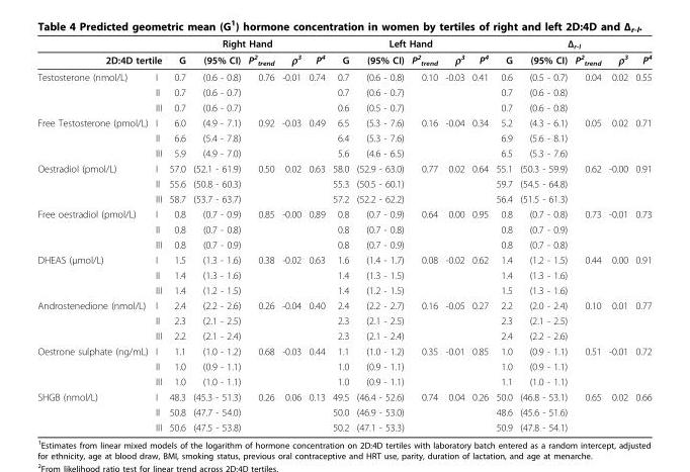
<table><thead><tr><td></td><td></td><td colspan="5">Right Hand</td><td colspan="5">Left Hand</td><td colspan="5">Δ<sub>r-l</sub></td></tr><tr><td colspan="2">2D:4D tertile</td><td>G</td><td>(95% CI)</td><td>P<sup>2</sup> <sub>trend</sub></td><td>ρ<sup>3</sup></td><td>P<sup>4</sup></td><td>G</td><td>(95% CI)</td><td>P<sup>2</sup> <sub>trend</sub></td><td>ρ<sup>3</sup></td><td>P<sup>4</sup></td><td>G</td><td>(95% CI)</td><td>P<sup>2</sup> <sub>trend</sub></td><td>ρ<sup>3</sup></td><td>P<sup>4</sup></td></tr></thead><tbody><tr><td rowspan="3">Testosterone (nmol/L)</td><td>I</td><td>0.7</td><td>(0.6 - 0.8)</td><td>0.76</td><td>-0.01</td><td>0.74</td><td>0.7</td><td>(0.6 - 0.8)</td><td>0.10</td><td>-0.03</td><td>0.41</td><td>0.6</td><td>(0.5 - 0.7)</td><td>0.04</td><td>0.02</td><td>0.55</td></tr><tr><td>II</td><td>0.7</td><td>(0.6 - 0.7)</td><td></td><td></td><td></td><td>0.7</td><td>(0.6 - 0.7)</td><td></td><td></td><td></td><td>0.7</td><td>(0.6 - 0.8)</td><td></td><td></td><td></td></tr><tr><td>III</td><td>0.7</td><td>(0.6 - 0.7)</td><td></td><td></td><td></td><td>0.6</td><td>(0.5 - 0.7)</td><td></td><td></td><td></td><td>0.7</td><td>(0.6 - 0.8)</td><td></td><td></td><td></td></tr><tr><td rowspan="3">Free Testosterone (pmol/L)</td><td>I</td><td>6.0</td><td>(4.9 - 7.1)</td><td>0.92</td><td>-0.03</td><td>0.49</td><td>6.5</td><td>(5.3 - 7.6)</td><td>0.16</td><td>-0.04</td><td>0.34</td><td>5.2</td><td>(4.3 - 6.1)</td><td>0.05</td><td>0.02</td><td>0.71</td></tr><tr><td>II</td><td>6.6</td><td>(5.4 - 7.8)</td><td></td><td></td><td></td><td>6.4</td><td>(5.3 - 7.6)</td><td></td><td></td><td></td><td>6.9</td><td>(5.6 - 8.1)</td><td></td><td></td><td></td></tr><tr><td>III</td><td>5.9</td><td>(4.9 - 7.0)</td><td></td><td></td><td></td><td>5.6</td><td>(4.6 - 6.5)</td><td></td><td></td><td></td><td>6.5</td><td>(5.3 - 7.6)</td><td></td><td></td><td></td></tr><tr><td rowspan="3">Oestradiol (pmol/L)</td><td>I</td><td>57.0</td><td>(52.1 - 61.9)</td><td>0.50</td><td>0.02</td><td>0.63</td><td>58.0</td><td>(52.9 - 63.0)</td><td>0.77</td><td>0.02</td><td>0.64</td><td>55.1</td><td>(50.3 - 59.9)</td><td>0.62</td><td>-0.00</td><td>0.91</td></tr><tr><td>II</td><td>55.6</td><td>(50.8 - 60.3)</td><td></td><td></td><td></td><td>55.3</td><td>(50.5 - 60.1)</td><td></td><td></td><td></td><td>59.7</td><td>(54.5 - 64.8)</td><td></td><td></td><td></td></tr><tr><td>III</td><td>58.7</td><td>(53.7 - 63.7)</td><td></td><td></td><td></td><td>57.2</td><td>(52.2 - 62.2)</td><td></td><td></td><td></td><td>56.4</td><td>(51.5 - 61.3)</td><td></td><td></td><td></td></tr><tr><td rowspan="3">Free oestradiol (pmol/L)</td><td>I</td><td>0.8</td><td>(0.7 - 0.9)</td><td>0.85</td><td>-0.00</td><td>0.89</td><td>0.8</td><td>(0.7 - 0.9)</td><td>0.64</td><td>0.00</td><td>0.95</td><td>0.8</td><td>(0.7 - 0.8)</td><td>0.73</td><td>-0.01</td><td>0.73</td></tr><tr><td>II</td><td>0.8</td><td>(0.7 - 0.8)</td><td></td><td></td><td></td><td>0.8</td><td>(0.7 - 0.8)</td><td></td><td></td><td></td><td>0.8</td><td>(0.7 - 0.9)</td><td></td><td></td><td></td></tr><tr><td>III</td><td>0.8</td><td>(0.7 - 0.9)</td><td></td><td></td><td></td><td>0.8</td><td>(0.7 - 0.9)</td><td></td><td></td><td></td><td>0.8</td><td>(0.7 - 0.8)</td><td></td><td></td><td></td></tr><tr><td rowspan="3">DHEAS (μmol/L)</td><td>I</td><td>1.5</td><td>(1.3 - 1.6)</td><td>0.38</td><td>-0.02</td><td>0.63</td><td>1.6</td><td>(1.4 - 1.7)</td><td>0.08</td><td>-0.02</td><td>0.62</td><td>1.4</td><td>(1.2 - 1.5)</td><td>0.44</td><td>0.00</td><td>0.91</td></tr><tr><td>II</td><td>1.4</td><td>(1.3 - 1.6)</td><td></td><td></td><td></td><td>1.4</td><td>(1.3 - 1.5)</td><td></td><td></td><td></td><td>1.4</td><td>(1.3 - 1.6)</td><td></td><td></td><td></td></tr><tr><td>III</td><td>1.4</td><td>(1.2 - 1.5)</td><td></td><td></td><td></td><td>1.4</td><td>(1.2 - 1.5)</td><td></td><td></td><td></td><td>1.5</td><td>(1.3 - 1.6)</td><td></td><td></td><td></td></tr><tr><td rowspan="3">Androstenedione (nmol/L)</td><td>I</td><td>2.4</td><td>(2.2 - 2.6)</td><td>0.26</td><td>-0.04</td><td>0.40</td><td>2.4</td><td>(2.2 - 2.7)</td><td>0.16</td><td>-0.05</td><td>0.27</td><td>2.2</td><td>(2.0 - 2.4)</td><td>0.10</td><td>0.01</td><td>0.77</td></tr><tr><td>II</td><td>2.3</td><td>(2.1 - 2.5)</td><td></td><td></td><td></td><td>2.3</td><td>(2.1 - 2.5)</td><td></td><td></td><td></td><td>2.3</td><td>(2.1 - 2.5)</td><td></td><td></td><td></td></tr><tr><td>III</td><td>2.2</td><td>(2.1 - 2.4)</td><td></td><td></td><td></td><td>2.3</td><td>(2.1 - 2.4)</td><td></td><td></td><td></td><td>2.4</td><td>(2.2 - 2.6)</td><td></td><td></td><td></td></tr><tr><td rowspan="3">Oestrone sulphate (ng/mL)</td><td>I</td><td>1.1</td><td>(1.0 - 1.2)</td><td>0.68</td><td>-0.03</td><td>0.44</td><td>1.1</td><td>(1.0 - 1.2)</td><td>0.35</td><td>-0.01</td><td>0.85</td><td>1.0</td><td>(0.9 - 1.1)</td><td>0.51</td><td>-0.01</td><td>0.72</td></tr><tr><td>II</td><td>1.0</td><td>(0.9 - 1.1)</td><td></td><td></td><td></td><td>1.0</td><td>(0.9 - 1.1)</td><td></td><td></td><td></td><td>1.0</td><td>(0.9 - 1.1)</td><td></td><td></td><td></td></tr><tr><td>III</td><td>1.0</td><td>(1.0 - 1.1)</td><td></td><td></td><td></td><td>1.0</td><td>(0.9 - 1.1)</td><td></td><td></td><td></td><td>1.1</td><td>(1.0 - 1.1)</td><td></td><td></td><td></td></tr><tr><td rowspan="3">SHGB (nmol/L)</td><td>I</td><td>48.3</td><td>(45.3 - 51.3)</td><td>0.26</td><td>0.06</td><td>0.13</td><td>49.5</td><td>(46.4 - 52.6)</td><td>0.74</td><td>0.04</td><td>0.26</td><td>50.0</td><td>(46.8 - 53.1)</td><td>0.65</td><td>0.02</td><td>0.66</td></tr><tr><td>II</td><td>50.8</td><td>(47.7 - 54.0)</td><td></td><td></td><td></td><td>50.0</td><td>(46.9 - 53.0)</td><td></td><td></td><td></td><td>48.6</td><td>(45.6 - 51.6)</td><td></td><td></td><td></td></tr><tr><td>III</td><td>50.6</td><td>(47.5 - 53.8)</td><td></td><td></td><td></td><td>50.2</td><td>(47.1 - 53.3)</td><td></td><td></td><td></td><td>50.9</td><td>(47.8 - 54.1)</td><td></td><td></td><td></td></tr></tbody></table>